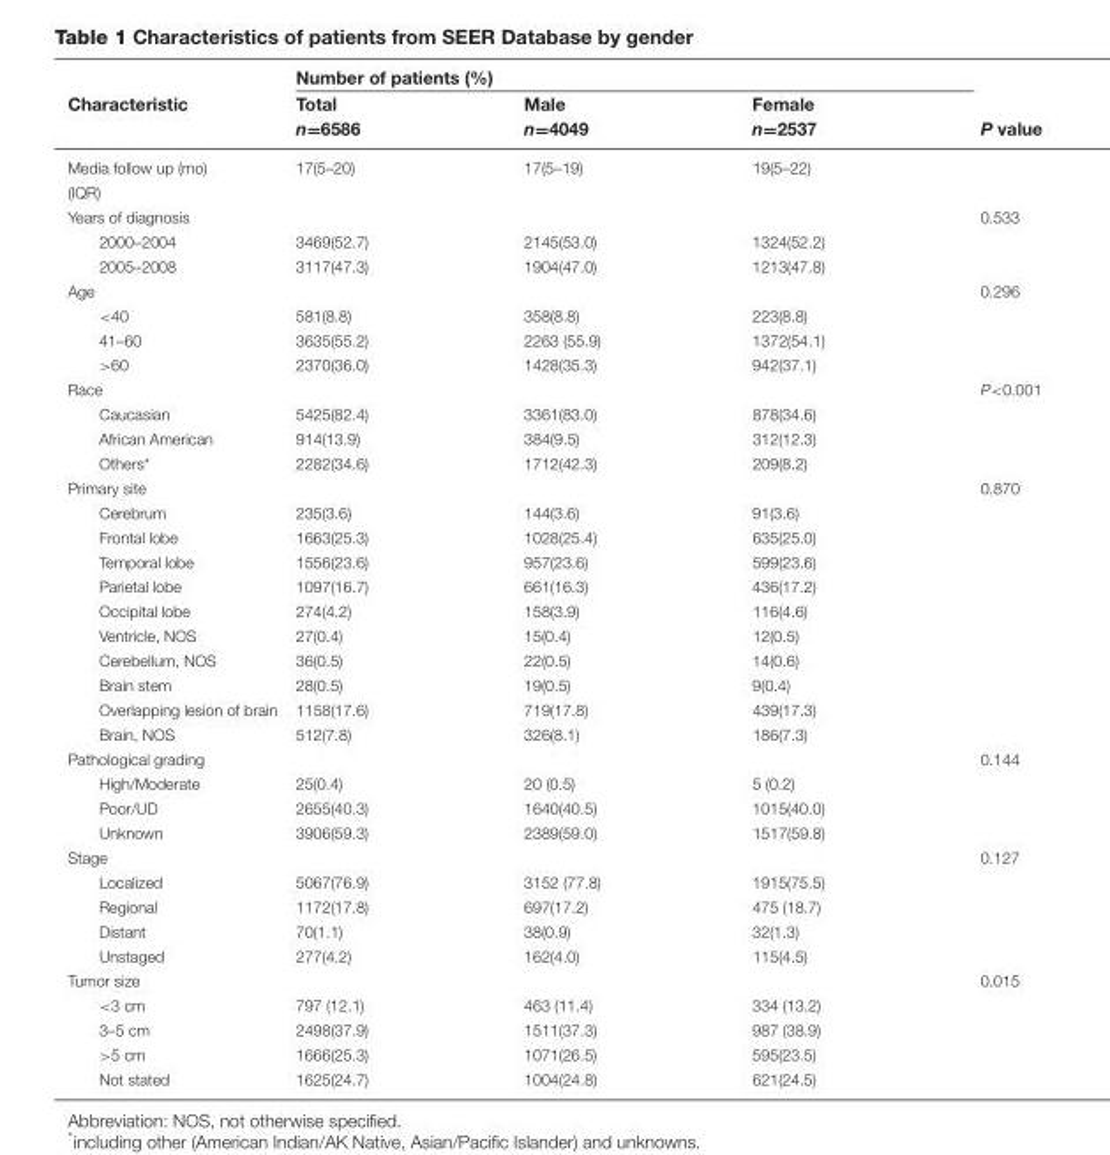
<table><thead><tr><td rowspan="3">Characteristic</td><td colspan="3">Number of patients (%)</td><td rowspan="3">P value</td></tr><tr><td rowspan="2">Total n=6586</td><td rowspan="2">Male n=4049</td><td rowspan="2">Female n=2537</td></tr><tr></tr></thead><tbody><tr><td>Media follow up (mo)</td><td>17(5–20)</td><td>17(5–19)</td><td>19(5–22)</td><td></td></tr><tr><td colspan="5">(IQR)</td></tr><tr><td>Years of diagnosis</td><td></td><td></td><td></td><td>0.533</td></tr><tr><td>2000–2004</td><td>3469(52.7)</td><td>2145(53.0)</td><td>1324(52.2)</td><td></td></tr><tr><td>2005–2008</td><td>3117(47.3)</td><td>1904(47.0)</td><td>1213(47.8)</td><td></td></tr><tr><td>Age</td><td></td><td></td><td></td><td>0.296</td></tr><tr><td>&lt;40</td><td>581(8.8)</td><td>358(8.8)</td><td>223(8.8)</td><td></td></tr><tr><td>41–60</td><td>3635(55.2)</td><td>2263 (55.9)</td><td>1372(54.1)</td><td></td></tr><tr><td>&gt;60</td><td>2370(36.0)</td><td>1428(35.3)</td><td>942(37.1)</td><td></td></tr><tr><td>Race</td><td></td><td></td><td></td><td>P&lt;0.001</td></tr><tr><td>Caucasian</td><td>5425(82.4)</td><td>3361(83.0)</td><td>878(34.6)</td><td></td></tr><tr><td>African American</td><td>914(13.9)</td><td>384(9.5)</td><td>312(12.3)</td><td></td></tr><tr><td>Others*</td><td>2282(34.6)</td><td>1712(42.3)</td><td>209(8.2)</td><td></td></tr><tr><td>Primary site</td><td></td><td></td><td></td><td>0.870</td></tr><tr><td>Cerebrum</td><td>235(3.6)</td><td>144(3.6)</td><td>91(3.6)</td><td></td></tr><tr><td>Frontal lobe</td><td>1663(25.3)</td><td>1028(25.4)</td><td>635(25.0)</td><td></td></tr><tr><td>Temporal lobe</td><td>1556(23.6)</td><td>957(23.6)</td><td>599(23.6)</td><td></td></tr><tr><td>Parietal lobe</td><td>1097(16.7)</td><td>661(16.3)</td><td>436(17.2)</td><td></td></tr><tr><td>Occipital lobe</td><td>274(4.2)</td><td>158(3.9)</td><td>116(4.6)</td><td></td></tr><tr><td>Ventricle, NOS</td><td>27(0.4)</td><td>15(0.4)</td><td>12(0.5)</td><td></td></tr><tr><td>Cerebellum, NOS</td><td>36(0.5)</td><td>22(0.5)</td><td>14(0.6)</td><td></td></tr><tr><td>Brain stem</td><td>28(0.5)</td><td>19(0.5)</td><td>9(0.4)</td><td></td></tr><tr><td>Overlapping lesion of brain</td><td>1158(17.6)</td><td>719(17.8)</td><td>439(17.3)</td><td></td></tr><tr><td>Brain, NOS</td><td>512(7.8)</td><td>326(8.1)</td><td>186(7.3)</td><td></td></tr><tr><td>Pathological grading</td><td></td><td></td><td></td><td>0.144</td></tr><tr><td>High/Moderate</td><td>25(0.4)</td><td>20 (0.5)</td><td>5 (0.2)</td><td></td></tr><tr><td>Poor/UD</td><td>2655(40.3)</td><td>1640(40.5)</td><td>1015(40.0)</td><td></td></tr><tr><td>Unknown</td><td>3906(59.3)</td><td>2389(59.0)</td><td>1517(59.8)</td><td></td></tr><tr><td>Stage</td><td></td><td></td><td></td><td>0.127</td></tr><tr><td>Localized</td><td>5067(76.9)</td><td>3152 (77.8)</td><td>1915(75.5)</td><td></td></tr><tr><td>Regional</td><td>1172(17.8)</td><td>697(17.2)</td><td>475 (18.7)</td><td></td></tr><tr><td>Distant</td><td>70(1.1)</td><td>38(0.9)</td><td>32(1.3)</td><td></td></tr><tr><td>Unstaged</td><td>277(4.2)</td><td>162(4.0)</td><td>115(4.5)</td><td></td></tr><tr><td>Tumor size</td><td></td><td></td><td></td><td>0.015</td></tr><tr><td>&lt;3 cm</td><td>797 (12.1)</td><td>463 (11.4)</td><td>334 (13.2)</td><td></td></tr><tr><td>3–5 cm</td><td>2498(37.9)</td><td>1511(37.3)</td><td>987 (38.9)</td><td></td></tr><tr><td>&gt;5 cm</td><td>1666(25.3)</td><td>1071(26.5)</td><td>595(23.5)</td><td></td></tr><tr><td>Not stated</td><td>1625(24.7)</td><td>1004(24.8)</td><td>621(24.5)</td><td></td></tr></tbody></table>